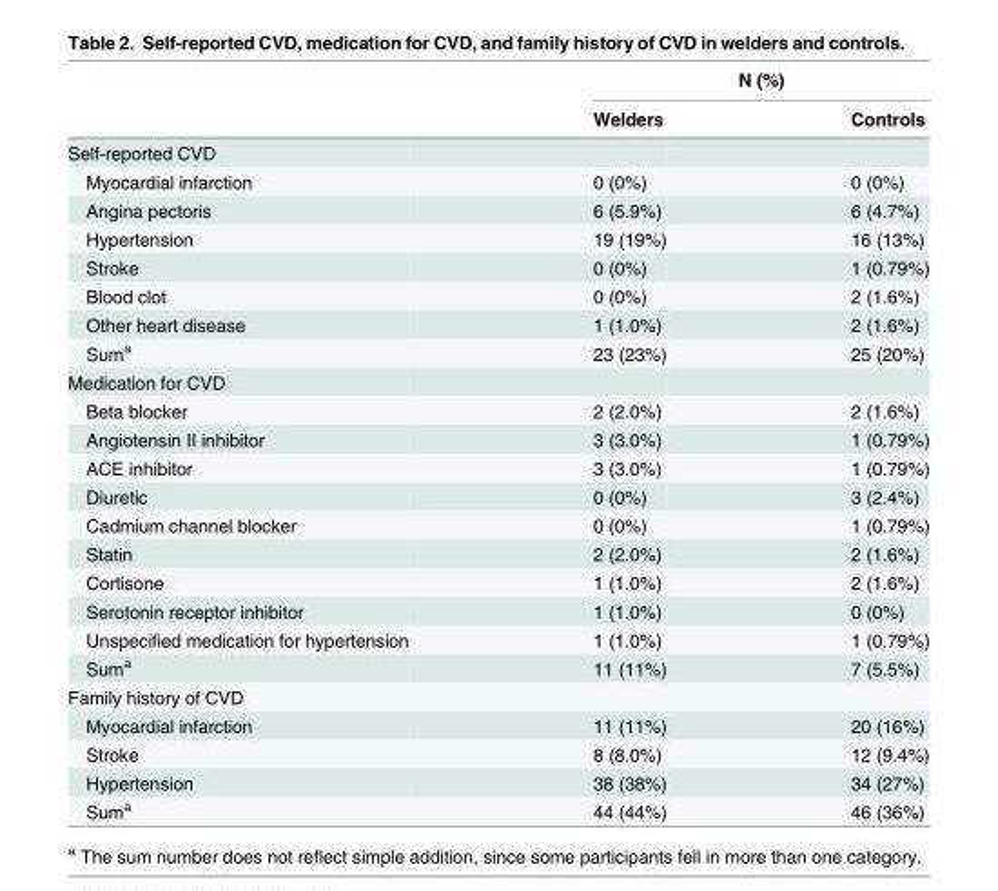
<table><thead><tr><td rowspan="2"></td><td colspan="2">N (%)</td></tr><tr><td>Welders</td><td>Controls</td></tr></thead><tbody><tr><td colspan="3">Self-reported CVD</td></tr><tr><td>Myocardial infarction</td><td>0 (0%)</td><td>0 (0%)</td></tr><tr><td>Angina pectoris</td><td>6 (5.9%)</td><td>6 (4.7%)</td></tr><tr><td>Hypertension</td><td>19 (19%)</td><td>16 (13%)</td></tr><tr><td>Stroke</td><td>0 (0%)</td><td>1 (0.79%)</td></tr><tr><td>Blood clot</td><td>0 (0%)</td><td>2 (1.6%)</td></tr><tr><td>Other heart disease</td><td>1 (1.0%)</td><td>2 (1.6%)</td></tr><tr><td>Sum<sup>a</sup></td><td>23 (23%)</td><td>25 (20%)</td></tr><tr><td colspan="3">Medication for CVD</td></tr><tr><td>Beta blocker</td><td>2 (2.0%)</td><td>2 (1.6%)</td></tr><tr><td>Angiotensin II inhibitor</td><td>3 (3.0%)</td><td>1 (0.79%)</td></tr><tr><td>ACE inhibitor</td><td>3 (3.0%)</td><td>1 (0.79%)</td></tr><tr><td>Diuretic</td><td>0 (0%)</td><td>3 (2.4%)</td></tr><tr><td>Cadmium channel blocker</td><td>0 (0%)</td><td>1 (0.79%)</td></tr><tr><td>Statin</td><td>2 (2.0%)</td><td>2 (1.6%)</td></tr><tr><td>Cortisone</td><td>1 (1.0%)</td><td>2 (1.6%)</td></tr><tr><td>Serotonin receptor inhibitor</td><td>1 (1.0%)</td><td>0 (0%)</td></tr><tr><td>Unspecified medication for hypertension</td><td>1 (1.0%)</td><td>1 (0.79%)</td></tr><tr><td>Sum<sup>a</sup></td><td>11 (11%)</td><td>7 (5.5%)</td></tr><tr><td colspan="3">Family history of CVD</td></tr><tr><td>Myocardial infarction</td><td>11 (11%)</td><td>20 (16%)</td></tr><tr><td>Stroke</td><td>8 (8.0%)</td><td>12 (9.4%)</td></tr><tr><td>Hypertension</td><td>38 (38%)</td><td>34 (27%)</td></tr><tr><td>Sum<sup>a</sup></td><td>44 (44%)</td><td>46 (36%)</td></tr></tbody></table>